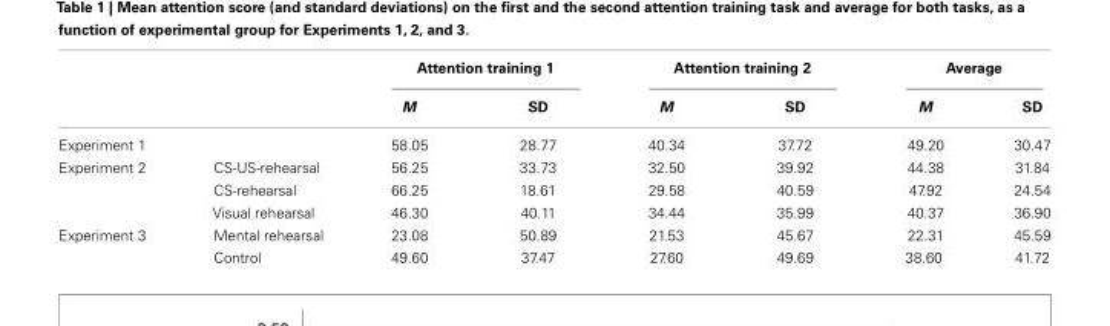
<table><thead><tr><td rowspan="2"></td><td rowspan="2"></td><td colspan="2">Attention training 1</td><td colspan="2">Attention training 2</td><td colspan="2">Average</td></tr><tr><td>M</td><td>SD</td><td>M</td><td>SD</td><td>M</td><td>SD</td></tr></thead><tbody><tr><td>Experiment 1</td><td></td><td>58.05</td><td>28.77</td><td>40.34</td><td>37.72</td><td>49.20</td><td>30.47</td></tr><tr><td rowspan="3">Experiment 2</td><td>CS-US-rehearsal</td><td>56.25</td><td>33.73</td><td>32.50</td><td>39.92</td><td>44.38</td><td>31.84</td></tr><tr><td>CS-rehearsal</td><td>66.25</td><td>18.61</td><td>29.58</td><td>40.59</td><td>47.92</td><td>24.54</td></tr><tr><td>Visual rehearsal</td><td>46.30</td><td>40.11</td><td>34.44</td><td>35.99</td><td>40.37</td><td>36.90</td></tr><tr><td rowspan="2">Experiment 3</td><td>Mental rehearsal</td><td>23.08</td><td>50.89</td><td>21.53</td><td>45.67</td><td>22.31</td><td>45.59</td></tr><tr><td>Control</td><td>49.60</td><td>37.47</td><td>27.60</td><td>49.69</td><td>38.60</td><td>41.72</td></tr></tbody></table>